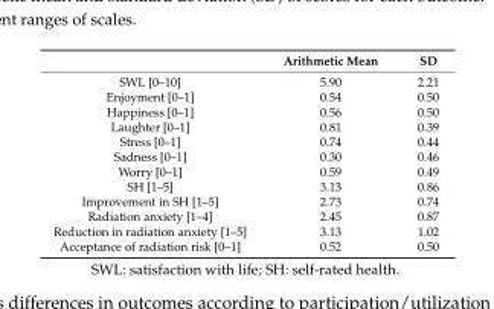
<table><thead><tr><td></td><td>Arithmetic Mean</td><td>SD</td></tr></thead><tbody><tr><td>SWL [0–10]</td><td>5.90</td><td>2.21</td></tr><tr><td>Enjoyment [0–1]</td><td>0.54</td><td>0.50</td></tr><tr><td>Happiness [0–1]</td><td>0.56</td><td>0.50</td></tr><tr><td>Laughter [0–1]</td><td>0.81</td><td>0.39</td></tr><tr><td>Stress [0–1]</td><td>0.74</td><td>0.44</td></tr><tr><td>Sadness [0–1]</td><td>0.30</td><td>0.46</td></tr><tr><td>Worry [0–1]</td><td>0.59</td><td>0.49</td></tr><tr><td>SH [1–5]</td><td>3.13</td><td>0.86</td></tr><tr><td>Improvement in SH [1–5]</td><td>2.73</td><td>0.74</td></tr><tr><td>Radiation anxiety [1–4]</td><td>2.45</td><td>0.87</td></tr><tr><td>Reduction in radiation anxiety [1–5]</td><td>3.13</td><td>1.02</td></tr><tr><td>Acceptance of radiation risk [0–1]</td><td>0.52</td><td>0.50</td></tr></tbody></table>